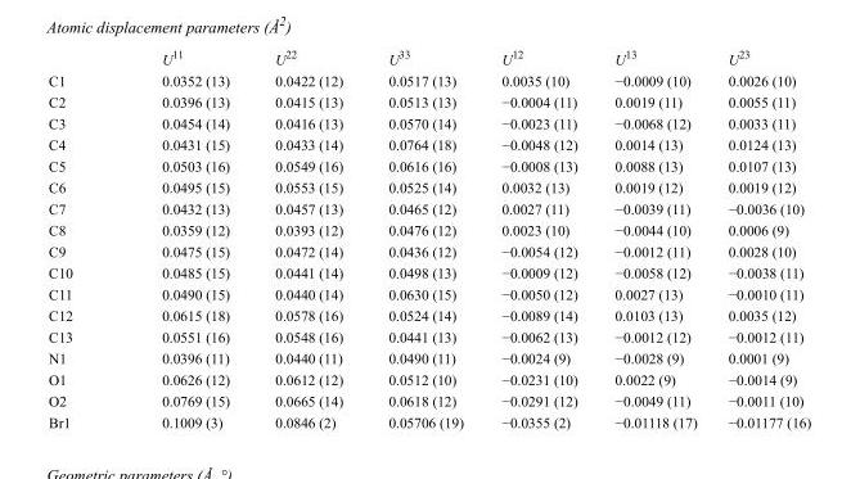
<table><thead><tr><td></td><td>U<sup>11</sup></td><td>U<sup>22</sup></td><td>U<sup>33</sup></td><td>U<sup>12</sup></td><td>U<sup>13</sup></td><td>U<sup>23</sup></td></tr></thead><tbody><tr><td>C1</td><td>0.0352 (13)</td><td>0.0422 (12)</td><td>0.0517 (13)</td><td>0.0035 (10)</td><td>−0.0009 (10)</td><td>0.0026 (10)</td></tr><tr><td>C2</td><td>0.0396 (13)</td><td>0.0415 (13)</td><td>0.0513 (13)</td><td>−0.0004 (11)</td><td>0.0019 (11)</td><td>0.0055 (11)</td></tr><tr><td>C3</td><td>0.0454 (14)</td><td>0.0416 (13)</td><td>0.0570 (14)</td><td>−0.0023 (11)</td><td>−0.0068 (12)</td><td>0.0033 (11)</td></tr><tr><td>C4</td><td>0.0431 (15)</td><td>0.0433 (14)</td><td>0.0764 (18)</td><td>−0.0048 (12)</td><td>0.0014 (13)</td><td>0.0124 (13)</td></tr><tr><td>C5</td><td>0.0503 (16)</td><td>0.0549 (16)</td><td>0.0616 (16)</td><td>−0.0008 (13)</td><td>0.0088 (13)</td><td>0.0107 (13)</td></tr><tr><td>C6</td><td>0.0495 (15)</td><td>0.0553 (15)</td><td>0.0525 (14)</td><td>0.0032 (13)</td><td>0.0019 (12)</td><td>0.0019 (12)</td></tr><tr><td>C7</td><td>0.0432 (13)</td><td>0.0457 (13)</td><td>0.0465 (12)</td><td>0.0027 (11)</td><td>−0.0039 (11)</td><td>−0.0036 (10)</td></tr><tr><td>C8</td><td>0.0359 (12)</td><td>0.0393 (12)</td><td>0.0476 (12)</td><td>0.0023 (10)</td><td>−0.0044 (10)</td><td>0.0006 (9)</td></tr><tr><td>C9</td><td>0.0475 (15)</td><td>0.0472 (14)</td><td>0.0436 (12)</td><td>−0.0054 (12)</td><td>−0.0012 (11)</td><td>0.0028 (10)</td></tr><tr><td>C10</td><td>0.0485 (15)</td><td>0.0441 (14)</td><td>0.0498 (13)</td><td>−0.0009 (12)</td><td>−0.0058 (12)</td><td>−0.0038 (11)</td></tr><tr><td>C11</td><td>0.0490 (15)</td><td>0.0440 (14)</td><td>0.0630 (15)</td><td>−0.0050 (12)</td><td>0.0027 (13)</td><td>−0.0010 (11)</td></tr><tr><td>C12</td><td>0.0615 (18)</td><td>0.0578 (16)</td><td>0.0524 (14)</td><td>−0.0089 (14)</td><td>0.0103 (13)</td><td>0.0035 (12)</td></tr><tr><td>C13</td><td>0.0551 (16)</td><td>0.0548 (16)</td><td>0.0441 (13)</td><td>−0.0062 (13)</td><td>−0.0012 (12)</td><td>−0.0012 (11)</td></tr><tr><td>N1</td><td>0.0396 (11)</td><td>0.0440 (11)</td><td>0.0490 (11)</td><td>−0.0024 (9)</td><td>−0.0028 (9)</td><td>0.0001 (9)</td></tr><tr><td>O1</td><td>0.0626 (12)</td><td>0.0612 (12)</td><td>0.0512 (10)</td><td>−0.0231 (10)</td><td>0.0022 (9)</td><td>−0.0014 (9)</td></tr><tr><td>O2</td><td>0.0769 (15)</td><td>0.0665 (14)</td><td>0.0618 (12)</td><td>−0.0291 (12)</td><td>−0.0049 (11)</td><td>−0.0011 (10)</td></tr><tr><td>Br1</td><td>0.1009 (3)</td><td>0.0846 (2)</td><td>0.05706 (19)</td><td>−0.0355 (2)</td><td>−0.01118 (17)</td><td>−0.01177 (16)</td></tr></tbody></table>